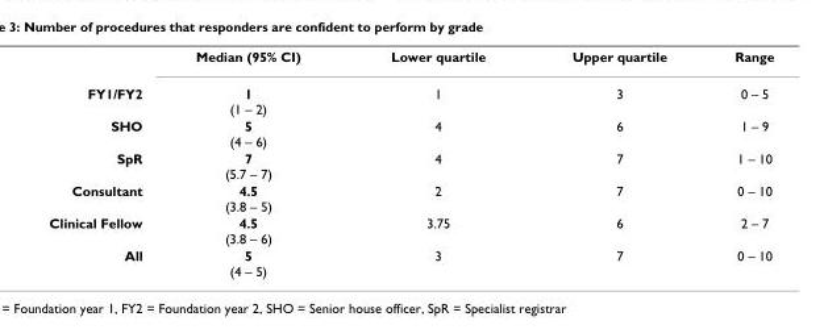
<table><thead><tr><td></td><td>Median (95% CI)</td><td>Lower quartile</td><td>Upper quartile</td><td>Range</td></tr></thead><tbody><tr><td>FY1/FY2</td><td>1 (1 – 2)</td><td>1</td><td>3</td><td>0 – 5</td></tr><tr><td>SHO</td><td>5 (4 – 6)</td><td>4</td><td>6</td><td>1 – 9</td></tr><tr><td>SpR</td><td>7 (5.7 – 7)</td><td>4</td><td>7</td><td>1 – 10</td></tr><tr><td>Consultant</td><td>4.5 (3.8 – 5)</td><td>2</td><td>7</td><td>0 – 10</td></tr><tr><td>Clinical Fellow</td><td>4.5 (3.8 – 6)</td><td>3.75</td><td>6</td><td>2 – 7</td></tr><tr><td>All</td><td>5 (4 – 5)</td><td>3</td><td>7</td><td>0 – 10</td></tr></tbody></table>